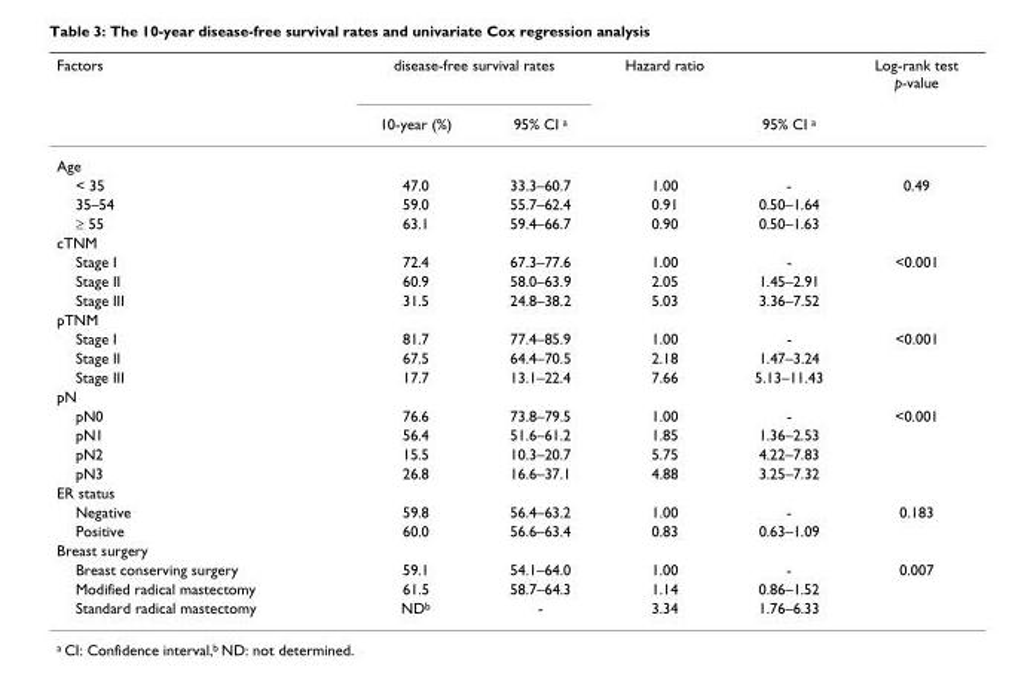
<table><thead><tr><td rowspan="2">Factors</td><td colspan="2">disease-free survival rates</td><td rowspan="2">Hazard ratio</td><td rowspan="2">95% CI <sup>a</sup></td><td rowspan="2">Log-rank test p-value</td></tr><tr><td>10-year (%)</td><td>95% CI <sup>a</sup></td></tr></thead><tbody><tr><td colspan="6">Age</td></tr><tr><td>&lt; 35</td><td>47.0</td><td>33.3–60.7</td><td>1.00</td><td>-</td><td>0.49</td></tr><tr><td>35–54</td><td>59.0</td><td>55.7–62.4</td><td>0.91</td><td>0.50–1.64</td><td></td></tr><tr><td>≥ 55</td><td>63.1</td><td>59.4–66.7</td><td>0.90</td><td>0.50–1.63</td><td></td></tr><tr><td colspan="6">cTNM</td></tr><tr><td>Stage I</td><td>72.4</td><td>67.3–77.6</td><td>1.00</td><td>-</td><td>&lt;0.001</td></tr><tr><td>Stage II</td><td>60.9</td><td>58.0–63.9</td><td>2.05</td><td>1.45–2.91</td><td></td></tr><tr><td>Stage III</td><td>31.5</td><td>24.8–38.2</td><td>5.03</td><td>3.36–7.52</td><td></td></tr><tr><td colspan="6">pTNM</td></tr><tr><td>Stage I</td><td>81.7</td><td>77.4–85.9</td><td>1.00</td><td>-</td><td>&lt;0.001</td></tr><tr><td>Stage II</td><td>67.5</td><td>64.4–70.5</td><td>2.18</td><td>1.47–3.24</td><td></td></tr><tr><td>Stage III</td><td>17.7</td><td>13.1–22.4</td><td>7.66</td><td>5.13–11.43</td><td></td></tr><tr><td colspan="6">pN</td></tr><tr><td>pN0</td><td>76.6</td><td>73.8–79.5</td><td>1.00</td><td>-</td><td>&lt;0.001</td></tr><tr><td>pN1</td><td>56.4</td><td>51.6–61.2</td><td>1.85</td><td>1.36–2.53</td><td></td></tr><tr><td>pN2</td><td>15.5</td><td>10.3–20.7</td><td>5.75</td><td>4.22–7.83</td><td></td></tr><tr><td>pN3</td><td>26.8</td><td>16.6–37.1</td><td>4.88</td><td>3.25–7.32</td><td></td></tr><tr><td colspan="6">ER status</td></tr><tr><td>Negative</td><td>59.8</td><td>56.4–63.2</td><td>1.00</td><td>-</td><td>0.183</td></tr><tr><td>Positive</td><td>60.0</td><td>56.6–63.4</td><td>0.83</td><td>0.63–1.09</td><td></td></tr><tr><td colspan="6">Breast surgery</td></tr><tr><td>Breast conserving surgery</td><td>59.1</td><td>54.1–64.0</td><td>1.00</td><td>-</td><td>0.007</td></tr><tr><td>Modified radical mastectomy</td><td>61.5</td><td>58.7–64.3</td><td>1.14</td><td>0.86–1.52</td><td></td></tr><tr><td>Standard radical mastectomy</td><td>ND<sup>b</sup></td><td>-</td><td>3.34</td><td>1.76–6.33</td><td></td></tr></tbody></table>